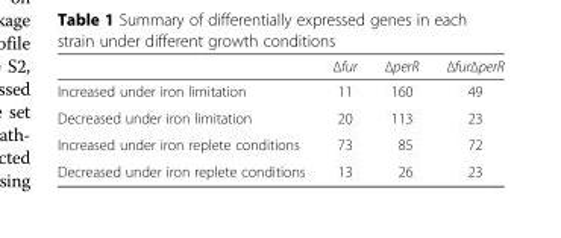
<table><thead><tr><td></td><td>Δfur</td><td>ΔperR</td><td>ΔfurΔperR</td></tr></thead><tbody><tr><td>Increased under iron limitation</td><td>11</td><td>160</td><td>49</td></tr><tr><td>Decreased under iron limitation</td><td>20</td><td>113</td><td>23</td></tr><tr><td>Increased under iron replete conditions</td><td>73</td><td>85</td><td>72</td></tr><tr><td>Decreased under iron replete conditions</td><td>13</td><td>26</td><td>23</td></tr></tbody></table>